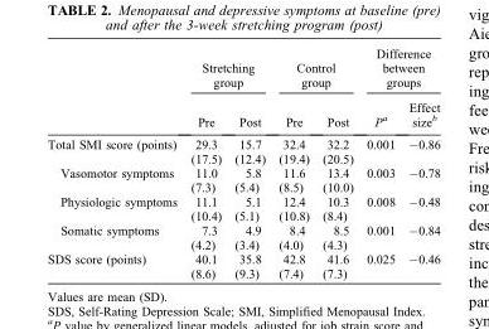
<table><thead><tr><td rowspan="2"></td><td colspan="2">Stretching group</td><td colspan="2">Control group</td><td colspan="2">Difference between groups</td></tr><tr><td>Pre</td><td>Post</td><td>Pre</td><td>Post</td><td>P<sup>a</sup></td><td>Effect size<sup>b</sup></td></tr></thead><tbody><tr><td>Total SMI score (points)</td><td>29.3 (17.5)</td><td>15.7 (12.4)</td><td>32.4 (19.4)</td><td>32.2 (20.5)</td><td>0.001</td><td>−0.86</td></tr><tr><td>Vasomotor symptoms</td><td>11.0 (7.3)</td><td>5.8 (5.4)</td><td>11.6 (8.5)</td><td>13.4 (10.0)</td><td>0.003</td><td>−0.78</td></tr><tr><td>Physiologic symptoms</td><td>11.1 (10.4)</td><td>5.1 (5.1)</td><td>12.4 (10.8)</td><td>10.3 (8.4)</td><td>0.008</td><td>−0.48</td></tr><tr><td>Somatic symptoms</td><td>7.3 (4.2)</td><td>4.9 (3.4)</td><td>8.4 (4.0)</td><td>8.5 (4.3)</td><td>0.001</td><td>−0.84</td></tr><tr><td>SDS score (points)</td><td>40.1 (8.6)</td><td>35.8 (9.3)</td><td>42.8 (7.4)</td><td>41.6 (7.3)</td><td>0.025</td><td>−0.46</td></tr></tbody></table>